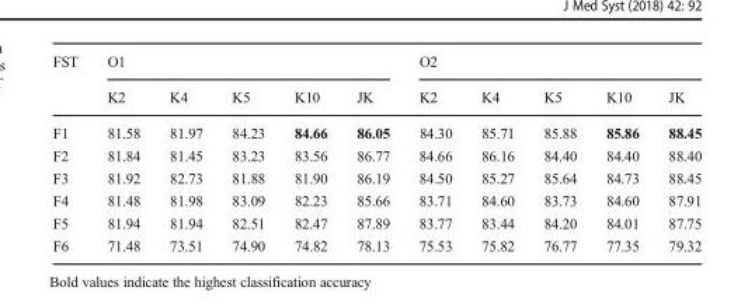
<table><thead><tr><td rowspan="2">FST</td><td colspan="5">O1</td><td colspan="5">O2</td></tr><tr><td>K2</td><td>K4</td><td>K5</td><td>K10</td><td>JK</td><td>K2</td><td>K4</td><td>K5</td><td>K10</td><td>JK</td></tr></thead><tbody><tr><td>F1</td><td>81.58</td><td>81.97</td><td>84.23</td><td>84.66</td><td>86.05</td><td>84.30</td><td>85.71</td><td>85.88</td><td>85.86</td><td>88.45</td></tr><tr><td>F2</td><td>81.84</td><td>81.45</td><td>83.23</td><td>83.56</td><td>86.77</td><td>84.66</td><td>86.16</td><td>84.40</td><td>84.40</td><td>88.40</td></tr><tr><td>F3</td><td>81.92</td><td>82.73</td><td>81.88</td><td>81.90</td><td>86.19</td><td>84.50</td><td>85.27</td><td>85.64</td><td>84.73</td><td>88.45</td></tr><tr><td>F4</td><td>81.48</td><td>81.98</td><td>83.09</td><td>82.23</td><td>85.66</td><td>83.71</td><td>84.60</td><td>83.73</td><td>84.60</td><td>87.91</td></tr><tr><td>F5</td><td>81.94</td><td>81.94</td><td>82.51</td><td>82.47</td><td>87.89</td><td>83.77</td><td>83.44</td><td>84.20</td><td>84.01</td><td>87.75</td></tr><tr><td>F6</td><td>71.48</td><td>73.51</td><td>74.90</td><td>74.82</td><td>78.13</td><td>75.53</td><td>75.82</td><td>76.77</td><td>77.35</td><td>79.32</td></tr></tbody></table>